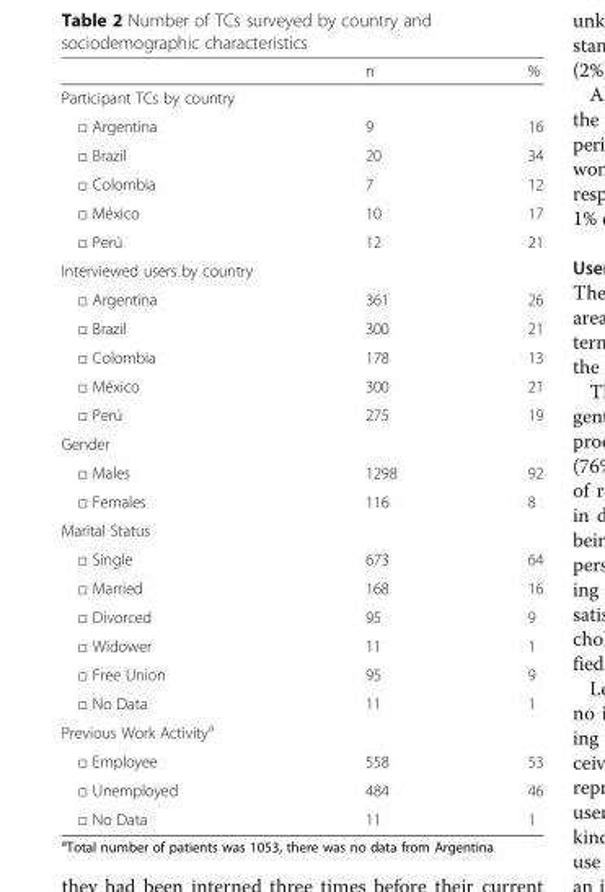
<table><thead><tr><td></td><td>n</td><td>%</td></tr></thead><tbody><tr><td colspan="3">Participant TCs by country</td></tr><tr><td>□ Argentina</td><td>9</td><td>16</td></tr><tr><td>□ Brazil</td><td>20</td><td>34</td></tr><tr><td>□ Colombia</td><td>7</td><td>12</td></tr><tr><td>□ México</td><td>10</td><td>17</td></tr><tr><td>□ Perú</td><td>12</td><td>21</td></tr><tr><td colspan="3">Interviewed users by country</td></tr><tr><td>□ Argentina</td><td>361</td><td>26</td></tr><tr><td>□ Brazil</td><td>300</td><td>21</td></tr><tr><td>□ Colombia</td><td>178</td><td>13</td></tr><tr><td>□ México</td><td>300</td><td>21</td></tr><tr><td>□ Perú</td><td>275</td><td>19</td></tr><tr><td colspan="3">Gender</td></tr><tr><td>□ Males</td><td>1298</td><td>92</td></tr><tr><td>□ Females</td><td>116</td><td>8</td></tr><tr><td colspan="3">Marital Status</td></tr><tr><td>□ Single</td><td>673</td><td>64</td></tr><tr><td>□ Married</td><td>168</td><td>16</td></tr><tr><td>□ Divorced</td><td>95</td><td>9</td></tr><tr><td>□ Widower</td><td>11</td><td>1</td></tr><tr><td>□ Free Union</td><td>95</td><td>9</td></tr><tr><td>□ No Data</td><td>11</td><td>1</td></tr><tr><td colspan="3">Previous Work Activity<sup>a</sup></td></tr><tr><td>□ Employee</td><td>558</td><td>53</td></tr><tr><td>□ Unemployed</td><td>484</td><td>46</td></tr><tr><td>□ No Data</td><td>11</td><td>1</td></tr></tbody></table>